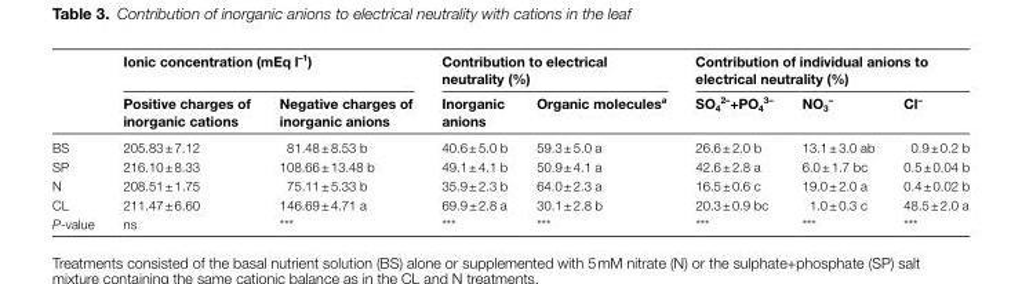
<table><thead><tr><td rowspan="2"></td><td colspan="2">Ionic concentration (mEq l<sup>–1</sup>)</td><td colspan="2">Contribution to electrical neutrality (%)</td><td colspan="3">Contribution of individual anions to electrical neutrality (%)</td></tr><tr><td>Positive charges of inorganic cations</td><td>Negative charges of inorganic anions</td><td>Inorganic anions</td><td>Organic molecules<sup>a</sup></td><td>SO<sub>4</sub> <sup>2–</sup>+PO<sub>4</sub> <sup>3–</sup></td><td>NO<sub>3</sub> <sup>–</sup></td><td>Cl<sup>–</sup></td></tr></thead><tbody><tr><td>BS</td><td>205.83 ± 7.12</td><td>81.48 ± 8.53 b</td><td>40.6 ± 5.0 b</td><td>59.3 ± 5.0 a</td><td>26.6 ± 2.0 b</td><td>13.1 ± 3.0 ab</td><td>0.9 ± 0.2 b</td></tr><tr><td>SP</td><td>216.10 ± 8.33</td><td>108.66 ± 13.48 b</td><td>49.1 ± 4.1 b</td><td>50.9 ± 4.1 a</td><td>42.6 ± 2.8 a</td><td>6.0 ± 1.7 bc</td><td>0.5 ± 0.04 b</td></tr><tr><td>N</td><td>208.51 ± 1.75</td><td>75.11 ± 5.33 b</td><td>35.9 ± 2.3 b</td><td>64.0 ± 2.3 a</td><td>16.5 ± 0.6 c</td><td>19.0 ± 2.0 a</td><td>0.4 ± 0.02 b</td></tr><tr><td>CL</td><td>211.47 ± 6.60</td><td>146.69 ± 4.71 a</td><td>69.9 ± 2.8 a</td><td>30.1 ± 2.8 b</td><td>20.3 ± 0.9 bc</td><td>1.0 ± 0.3 c</td><td>48.5 ± 2.0 a</td></tr><tr><td>P-value</td><td>ns</td><td>***</td><td>***</td><td>***</td><td>***</td><td>***</td><td>***</td></tr></tbody></table>